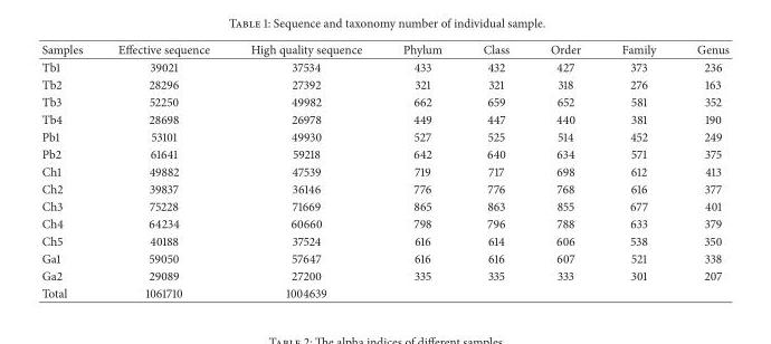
<table><thead><tr><td>Samples</td><td>Effective sequence</td><td>High quality sequence</td><td>Phylum</td><td>Class</td><td>Order</td><td>Family</td><td>Genus</td></tr></thead><tbody><tr><td>Tb1</td><td>39021</td><td>37534</td><td>433</td><td>432</td><td>427</td><td>373</td><td>236</td></tr><tr><td>Tb2</td><td>28296</td><td>27392</td><td>321</td><td>321</td><td>318</td><td>276</td><td>163</td></tr><tr><td>Tb3</td><td>52250</td><td>49982</td><td>662</td><td>659</td><td>652</td><td>581</td><td>352</td></tr><tr><td>Tb4</td><td>28698</td><td>26978</td><td>449</td><td>447</td><td>440</td><td>381</td><td>190</td></tr><tr><td>Pb1</td><td>53101</td><td>49930</td><td>527</td><td>525</td><td>514</td><td>452</td><td>249</td></tr><tr><td>Pb2</td><td>61641</td><td>59218</td><td>642</td><td>640</td><td>634</td><td>571</td><td>375</td></tr><tr><td>Ch1</td><td>49882</td><td>47539</td><td>719</td><td>717</td><td>698</td><td>612</td><td>413</td></tr><tr><td>Ch2</td><td>39837</td><td>36146</td><td>776</td><td>776</td><td>768</td><td>616</td><td>377</td></tr><tr><td>Ch3</td><td>75228</td><td>71669</td><td>865</td><td>863</td><td>855</td><td>677</td><td>401</td></tr><tr><td>Ch4</td><td>64234</td><td>60660</td><td>798</td><td>796</td><td>788</td><td>633</td><td>379</td></tr><tr><td>Ch5</td><td>40188</td><td>37524</td><td>616</td><td>614</td><td>606</td><td>538</td><td>350</td></tr><tr><td>Ga1</td><td>59050</td><td>57647</td><td>616</td><td>616</td><td>607</td><td>521</td><td>338</td></tr><tr><td>Ga2</td><td>29089</td><td>27200</td><td>335</td><td>335</td><td>333</td><td>301</td><td>207</td></tr><tr><td>Total</td><td>1061710</td><td>1004639</td><td></td><td></td><td></td><td></td><td></td></tr></tbody></table>